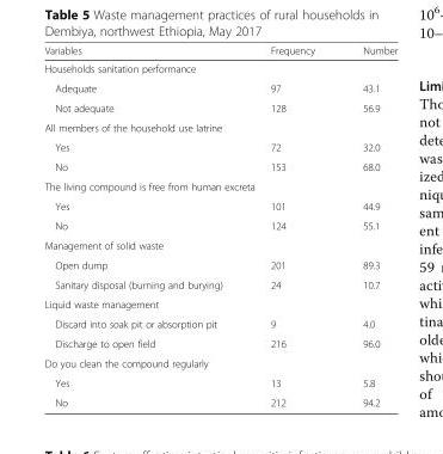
<table><thead><tr><td>Variables</td><td>Frequency</td><td>Number</td></tr></thead><tbody><tr><td colspan="3">Households sanitation performance</td></tr><tr><td>Adequate</td><td>97</td><td>43.1</td></tr><tr><td>Not adequate</td><td>128</td><td>56.9</td></tr><tr><td colspan="3">All members of the household use latrine</td></tr><tr><td>Yes</td><td>72</td><td>32.0</td></tr><tr><td>No</td><td>153</td><td>68.0</td></tr><tr><td colspan="3">The living compound is free from human excreta</td></tr><tr><td>Yes</td><td>101</td><td>44.9</td></tr><tr><td>No</td><td>124</td><td>55.1</td></tr><tr><td colspan="3">Management of solid waste</td></tr><tr><td>Open dump</td><td>201</td><td>89.3</td></tr><tr><td>Sanitary disposal (burning and burying)</td><td>24</td><td>10.7</td></tr><tr><td colspan="3">Liquid waste management</td></tr><tr><td>Discard into soak pit or absorption pit</td><td>9</td><td>4.0</td></tr><tr><td>Discharge to open field</td><td>216</td><td>96.0</td></tr><tr><td colspan="3">Do you clean the compound regularly</td></tr><tr><td>Yes</td><td>13</td><td>5.8</td></tr><tr><td>No</td><td>212</td><td>94.2</td></tr></tbody></table>